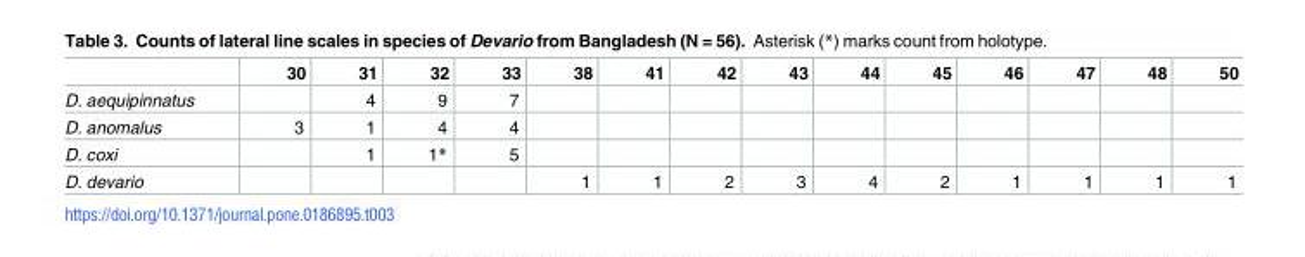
<table><thead><tr><td></td><td>30</td><td>31</td><td>32</td><td>33</td><td>38</td><td>41</td><td>42</td><td>43</td><td>44</td><td>45</td><td>46</td><td>47</td><td>48</td><td>50</td></tr></thead><tbody><tr><td>D. aequipinnatus</td><td></td><td>4</td><td>9</td><td>7</td><td></td><td></td><td></td><td></td><td></td><td></td><td></td><td></td><td></td><td></td></tr><tr><td>D. anomalus</td><td>3</td><td>1</td><td>4</td><td>4</td><td></td><td></td><td></td><td></td><td></td><td></td><td></td><td></td><td></td><td></td></tr><tr><td>D. coxi</td><td></td><td>1</td><td>1*</td><td>5</td><td></td><td></td><td></td><td></td><td></td><td></td><td></td><td></td><td></td><td></td></tr><tr><td>D. devario</td><td></td><td></td><td></td><td></td><td>1</td><td>1</td><td>2</td><td>3</td><td>4</td><td>2</td><td>1</td><td>1</td><td>1</td><td>1</td></tr></tbody></table>